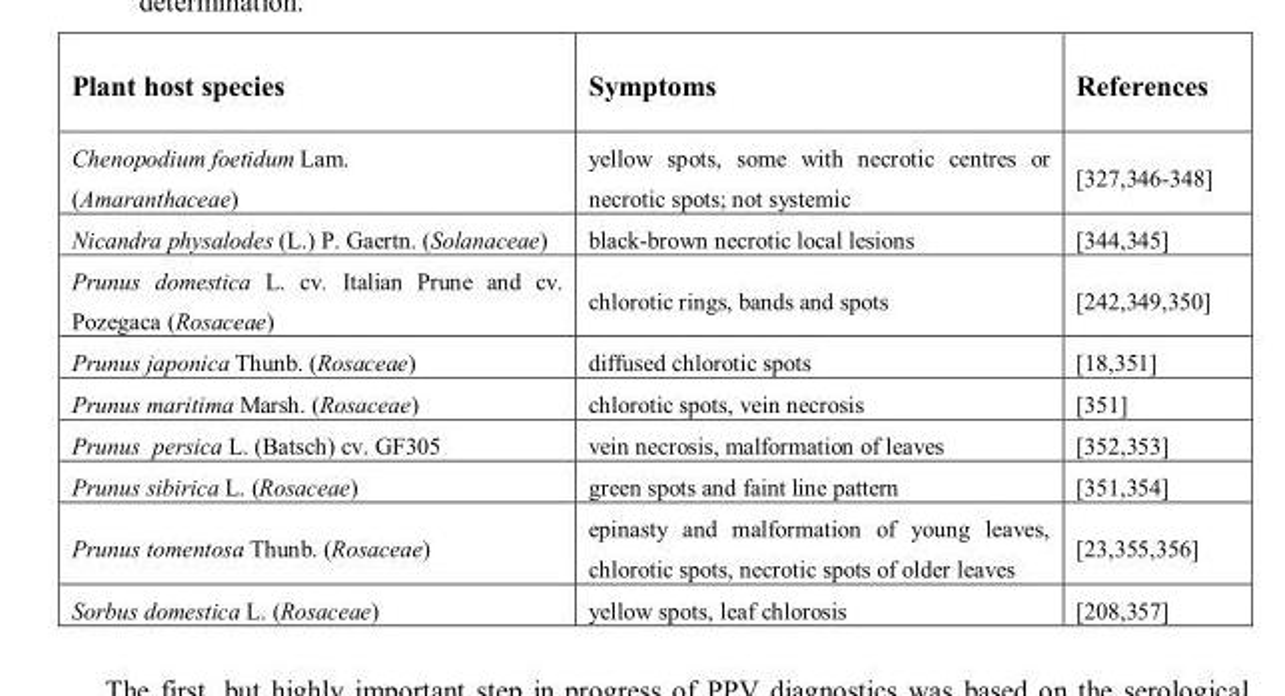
<table><thead><tr><td>Plant host species</td><td>Symptoms</td><td>References</td></tr></thead><tbody><tr><td>Chenopodium foetidum Lam. (Amaranthaceae)</td><td>yellow spots, some with necrotic centres or necrotic spots; not systemic</td><td>[327,346-348]</td></tr><tr><td>Nicandra physalodes (L.) P. Gaertn. (Solanaceae)</td><td>black-brown necrotic local lesions</td><td>[344,345]</td></tr><tr><td>Prunus domestica L. cv. Italian Prune and cv. Pozegaca (Rosaceae)</td><td>chlorotic rings, bands and spots</td><td>[242,349,350]</td></tr><tr><td>Prunus japonica Thunb. (Rosaceae)</td><td>diffused chlorotic spots</td><td>[18,351]</td></tr><tr><td>Prunus maritima Marsh. (Rosaceae)</td><td>chlorotic spots, vein necrosis</td><td>[351]</td></tr><tr><td>Prunus persica L. (Batsch) cv. GF305</td><td>vein necrosis, malformation of leaves</td><td>[352,353]</td></tr><tr><td>Prunus sibirica L. (Rosaceae)</td><td>green spots and faint line pattern</td><td>[351,354]</td></tr><tr><td>Prunus tomentosa Thunb. (Rosaceae)</td><td>epinasty and malformation of young leaves, chlorotic spots, necrotic spots of older leaves</td><td>[23,355,356]</td></tr><tr><td>Sorbus domestica L. (Rosaceae)</td><td>yellow spots, leaf chlorosis</td><td>[208,357]</td></tr></tbody></table>